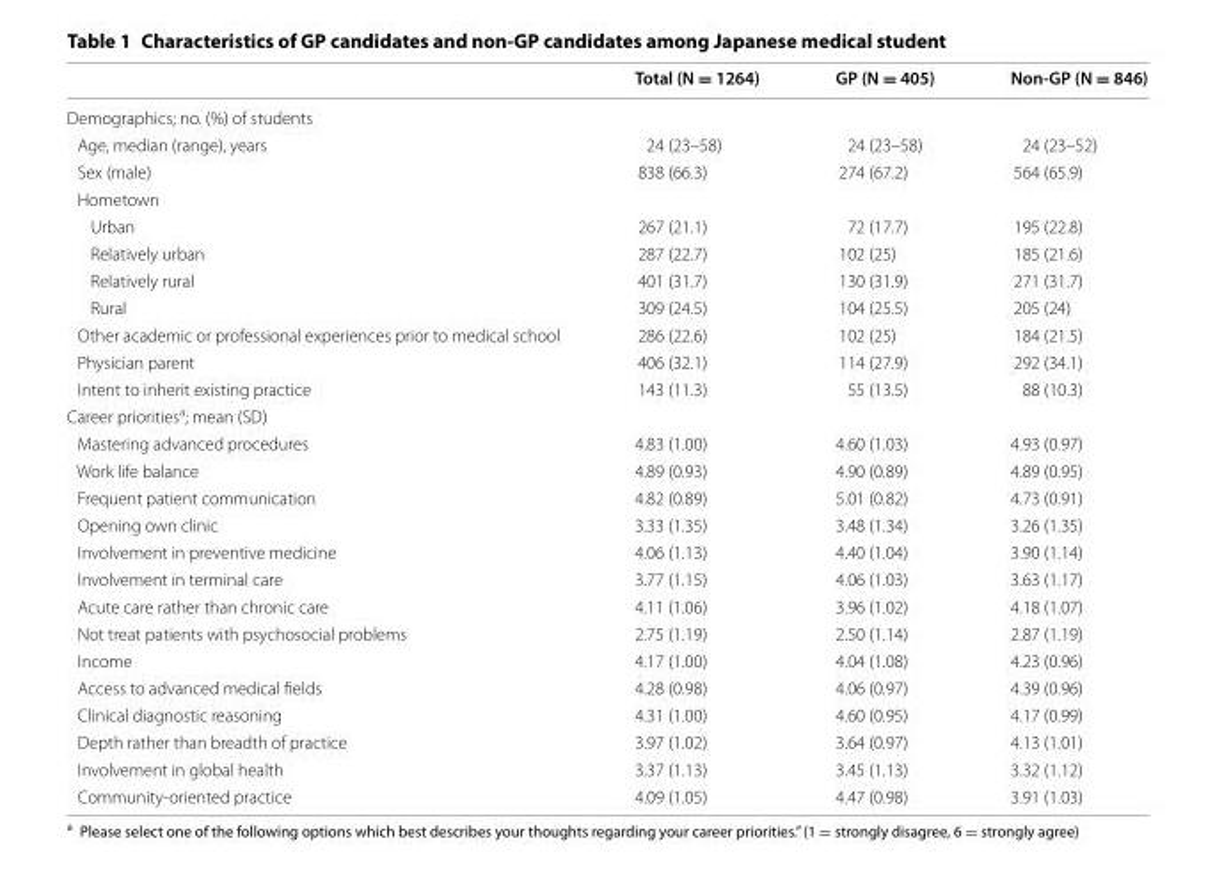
<table><thead><tr><td></td><td>Total (N = 1264)</td><td>GP (N = 405)</td><td>Non-GP (N = 846)</td></tr></thead><tbody><tr><td colspan="4">Demographics; no. (%) of students</td></tr><tr><td>Age, median (range), years</td><td>24 (23–58)</td><td>24 (23–58)</td><td>24 (23–52)</td></tr><tr><td>Sex (male)</td><td>838 (66.3)</td><td>274 (67.2)</td><td>564 (65.9)</td></tr><tr><td colspan="4">Hometown</td></tr><tr><td>Urban</td><td>267 (21.1)</td><td>72 (17.7)</td><td>195 (22.8)</td></tr><tr><td>Relatively urban</td><td>287 (22.7)</td><td>102 (25)</td><td>185 (21.6)</td></tr><tr><td>Relatively rural</td><td>401 (31.7)</td><td>130 (31.9)</td><td>271 (31.7)</td></tr><tr><td>Rural</td><td>309 (24.5)</td><td>104 (25.5)</td><td>205 (24)</td></tr><tr><td>Other academic or professional experiences prior to medical school</td><td>286 (22.6)</td><td>102 (25)</td><td>184 (21.5)</td></tr><tr><td>Physician parent</td><td>406 (32.1)</td><td>114 (27.9)</td><td>292 (34.1)</td></tr><tr><td>Intent to inherit existing practice</td><td>143 (11.3)</td><td>55 (13.5)</td><td>88 (10.3)</td></tr><tr><td colspan="4">Career priorities<sup>a</sup>; mean (SD)</td></tr><tr><td>Mastering advanced procedures</td><td>4.83 (1.00)</td><td>4.60 (1.03)</td><td>4.93 (0.97)</td></tr><tr><td>Work life balance</td><td>4.89 (0.93)</td><td>4.90 (0.89)</td><td>4.89 (0.95)</td></tr><tr><td>Frequent patient communication</td><td>4.82 (0.89)</td><td>5.01 (0.82)</td><td>4.73 (0.91)</td></tr><tr><td>Opening own clinic</td><td>3.33 (1.35)</td><td>3.48 (1.34)</td><td>3.26 (1.35)</td></tr><tr><td>Involvement in preventive medicine</td><td>4.06 (1.13)</td><td>4.40 (1.04)</td><td>3.90 (1.14)</td></tr><tr><td>Involvement in terminal care</td><td>3.77 (1.15)</td><td>4.06 (1.03)</td><td>3.63 (1.17)</td></tr><tr><td>Acute care rather than chronic care</td><td>4.11 (1.06)</td><td>3.96 (1.02)</td><td>4.18 (1.07)</td></tr><tr><td>Not treat patients with psychosocial problems</td><td>2.75 (1.19)</td><td>2.50 (1.14)</td><td>2.87 (1.19)</td></tr><tr><td>Income</td><td>4.17 (1.00)</td><td>4.04 (1.08)</td><td>4.23 (0.96)</td></tr><tr><td>Access to advanced medical fields</td><td>4.28 (0.98)</td><td>4.06 (0.97)</td><td>4.39 (0.96)</td></tr><tr><td>Clinical diagnostic reasoning</td><td>4.31 (1.00)</td><td>4.60 (0.95)</td><td>4.17 (0.99)</td></tr><tr><td>Depth rather than breadth of practice</td><td>3.97 (1.02)</td><td>3.64 (0.97)</td><td>4.13 (1.01)</td></tr><tr><td>Involvement in global health</td><td>3.37 (1.13)</td><td>3.45 (1.13)</td><td>3.32 (1.12)</td></tr><tr><td>Community-oriented practice</td><td>4.09 (1.05)</td><td>4.47 (0.98)</td><td>3.91 (1.03)</td></tr></tbody></table>